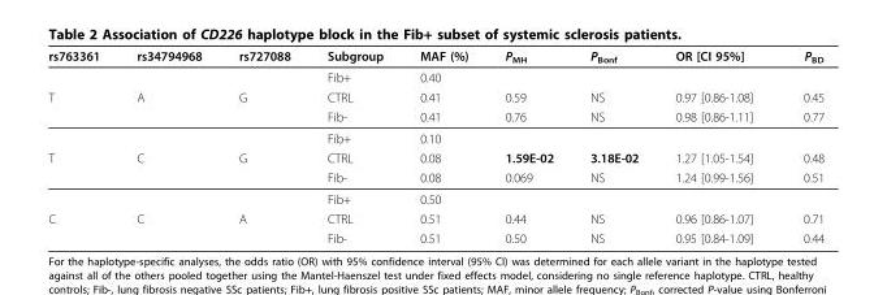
<table><thead><tr><td>rs763361</td><td>rs34794968</td><td>rs727088</td><td>Subgroup</td><td>MAF (%)</td><td>P<sub>MH</sub></td><td>P<sub>Bonf</sub></td><td>OR [CI 95%]</td><td>P<sub>BD</sub></td></tr></thead><tbody><tr><td></td><td></td><td></td><td>Fib+</td><td>0.40</td><td></td><td></td><td></td><td></td></tr><tr><td rowspan="3">T</td><td>A</td><td>G</td><td>CTRL</td><td>0.41</td><td>0.59</td><td>NS</td><td>0.97 [0.86-1.08]</td><td>0.45</td></tr><tr><td></td><td></td><td>Fib-</td><td>0.41</td><td>0.76</td><td>NS</td><td>0.98 [0.86-1.11]</td><td>0.77</td></tr><tr><td></td><td></td><td>Fib+</td><td>0.10</td><td></td><td></td><td></td><td></td></tr><tr><td rowspan="3">T</td><td>C</td><td>G</td><td>CTRL</td><td>0.08</td><td>1.59E-02</td><td>3.18E-02</td><td>1.27 [1.05-1.54]</td><td>0.48</td></tr><tr><td></td><td></td><td>Fib-</td><td>0.08</td><td>0.069</td><td>NS</td><td>1.24 [0.99-1.56]</td><td>0.51</td></tr><tr><td></td><td></td><td>Fib+</td><td>0.50</td><td></td><td></td><td></td><td></td></tr><tr><td rowspan="2">C</td><td>C</td><td>A</td><td>CTRL</td><td>0.51</td><td>0.44</td><td>NS</td><td>0.96 [0.86-1.07]</td><td>0.71</td></tr><tr><td></td><td></td><td>Fib-</td><td>0.51</td><td>0.50</td><td>NS</td><td>0.95 [0.84-1.09]</td><td>0.44</td></tr></tbody></table>